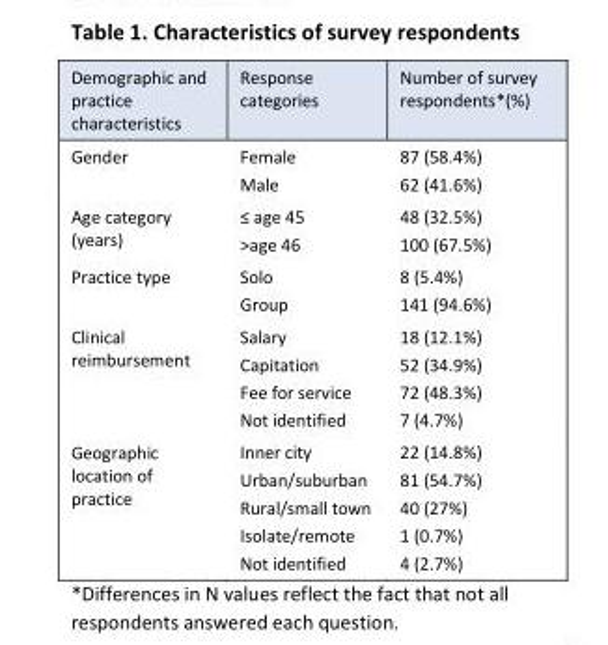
<table><thead><tr><td>Demographic and practice characteristics</td><td>Response categories</td><td>Number of survey respondents*(%)</td></tr></thead><tbody><tr><td rowspan="2">Gender</td><td>Female</td><td>87 (58.4%)</td></tr><tr><td>Male</td><td>62 (41.6%)</td></tr><tr><td rowspan="2">Age category (years)</td><td>≤ age 45</td><td>48 (32.5%)</td></tr><tr><td>&gt;age 46</td><td>100 (67.5%)</td></tr><tr><td rowspan="2">Practice type</td><td>Solo</td><td>8 (5.4%)</td></tr><tr><td>Group</td><td>141 (94.6%)</td></tr><tr><td rowspan="4">Clinical reimbursement</td><td>Salary</td><td>18 (12.1%)</td></tr><tr><td>Capitation</td><td>52 (34.9%)</td></tr><tr><td>Fee for service</td><td>72 (48.3%)</td></tr><tr><td>Not identified</td><td>7 (4.7%)</td></tr><tr><td rowspan="5">Geographic location of practice</td><td>Inner city</td><td>22 (14.8%)</td></tr><tr><td>Urban/suburban</td><td>81 (54.7%)</td></tr><tr><td>Rural/small town</td><td>40 (27%)</td></tr><tr><td>Isolate/remote</td><td>1 (0.7%)</td></tr><tr><td>Not identified</td><td>4 (2.7%)</td></tr></tbody></table>